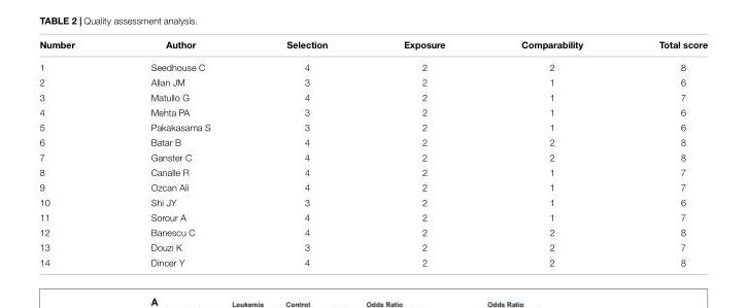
<table><thead><tr><td>Number</td><td>Author</td><td>Selection</td><td>Exposure</td><td>Comparability</td><td>Total score</td></tr></thead><tbody><tr><td>1</td><td>Seedhouse C</td><td>4</td><td>2</td><td>2</td><td>8</td></tr><tr><td>2</td><td>Allan JM</td><td>3</td><td>2</td><td>1</td><td>6</td></tr><tr><td>3</td><td>Matullo G</td><td>4</td><td>2</td><td>1</td><td>7</td></tr><tr><td>4</td><td>Mehta PA</td><td>3</td><td>2</td><td>1</td><td>6</td></tr><tr><td>5</td><td>Pakakasama S</td><td>3</td><td>2</td><td>1</td><td>6</td></tr><tr><td>6</td><td>Batar B</td><td>4</td><td>2</td><td>2</td><td>8</td></tr><tr><td>7</td><td>Ganster C</td><td>4</td><td>2</td><td>2</td><td>8</td></tr><tr><td>8</td><td>Canalle R</td><td>4</td><td>2</td><td>1</td><td>7</td></tr><tr><td>9</td><td>Ozcan Ali</td><td>4</td><td>2</td><td>1</td><td>7</td></tr><tr><td>10</td><td>Shi JY</td><td>3</td><td>2</td><td>1</td><td>6</td></tr><tr><td>11</td><td>Sorour A</td><td>4</td><td>2</td><td>1</td><td>7</td></tr><tr><td>12</td><td>Banescu C</td><td>4</td><td>2</td><td>2</td><td>8</td></tr><tr><td>13</td><td>Douzi K</td><td>3</td><td>2</td><td>2</td><td>7</td></tr><tr><td>14</td><td>Dincer Y</td><td>4</td><td>2</td><td>2</td><td>8</td></tr></tbody></table>